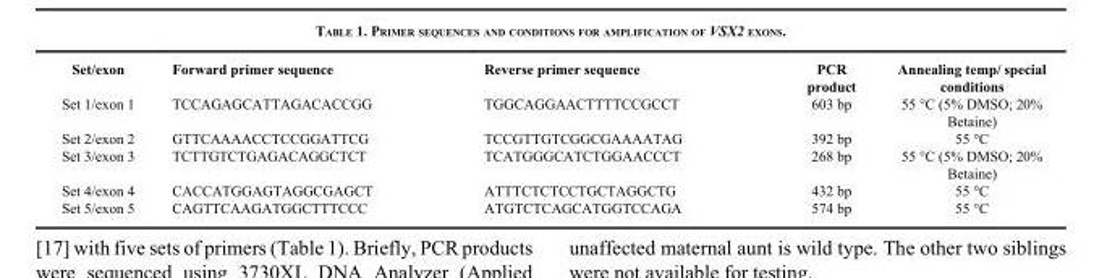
<table><thead><tr><td>Set/exon</td><td>Forward primer sequence</td><td>Reverse primer sequence</td><td>PCR product</td><td>Annealing temp/ special conditions</td></tr></thead><tbody><tr><td>Set 1/exon 1</td><td>TCCAGAGCATTAGACACCGG</td><td>TGGCAGGAACTTTTCCGCCT</td><td>603 bp</td><td>55 °C (5% DMSO; 20% Betaine)</td></tr><tr><td>Set 2/exon 2</td><td>GTTCAAAACCTCCGGATTCG</td><td>TCCGTTGTCGGCGAAAATAG</td><td>392 bp</td><td>55 °C</td></tr><tr><td>Set 3/exon 3</td><td>TCTTGTCTGAGACAGGCTCT</td><td>TCATGGGCATCTGGAACCCT</td><td>268 bp</td><td>55 °C (5% DMSO; 20% Betaine)</td></tr><tr><td>Set 4/exon 4</td><td>CACCATGGAGTAGGCGAGCT</td><td>ATTTCTCTCCTGCTAGGCTG</td><td>432 bp</td><td>55 °C</td></tr><tr><td>Set 5/exon 5</td><td>CAGTTCAAGATGGCTTTCCC</td><td>ATGTCTCAGCATGGTCCAGA</td><td>574 bp</td><td>55 °C</td></tr></tbody></table>